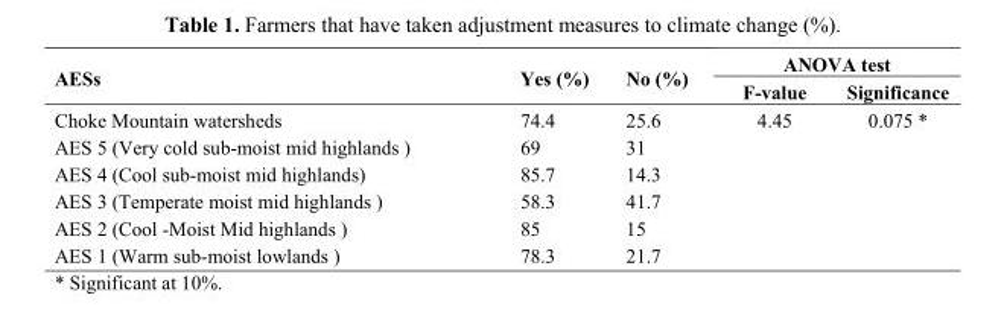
<table><thead><tr><td rowspan="2">AESs</td><td rowspan="2">Yes (%)</td><td rowspan="2">No (%)</td><td colspan="2">ANOVA test</td></tr><tr><td>F-value</td><td>Significance</td></tr></thead><tbody><tr><td>Choke Mountain watersheds</td><td>74.4</td><td>25.6</td><td rowspan="6">4.45</td><td rowspan="6">0.075 *</td></tr><tr><td>AES 5 (Very cold sub-moist mid highlands )</td><td>69</td><td>31</td></tr><tr><td>AES 4 (Cool sub-moist mid highlands)</td><td>85.7</td><td>14.3</td></tr><tr><td>AES 3 (Temperate moist mid highlands )</td><td>58.3</td><td>41.7</td></tr><tr><td>AES 2 (Cool -Moist Mid highlands )</td><td>85</td><td>15</td></tr><tr><td>AES 1 (Warm sub-moist lowlands )</td><td>78.3</td><td>21.7</td></tr></tbody></table>